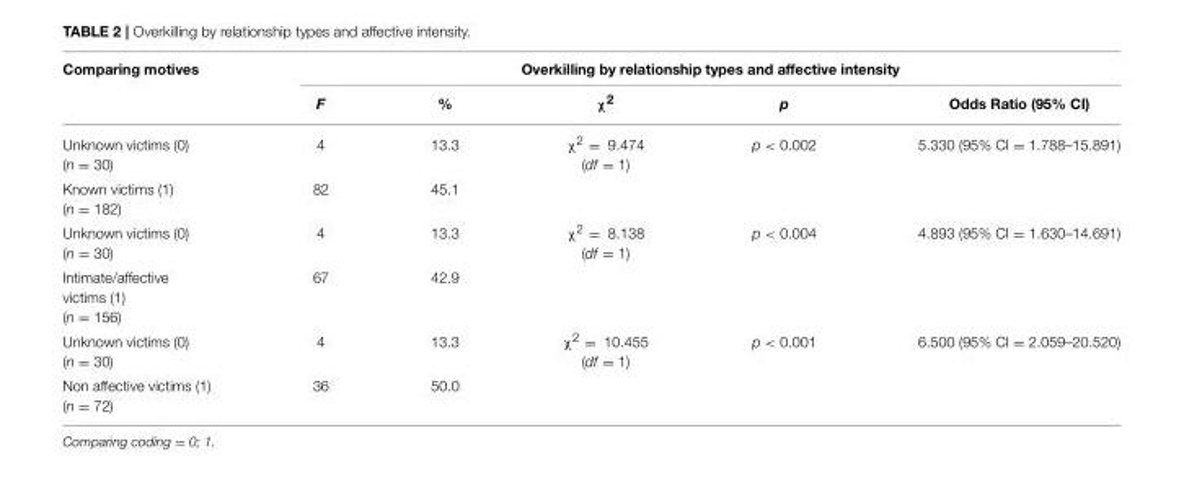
<table><thead><tr><td rowspan="2">Comparing motives</td><td colspan="5">Overkilling by relationship types and affective intensity</td></tr><tr><td>F</td><td>%</td><td>χ<sup>2</sup></td><td>p</td><td>Odds Ratio (95% CI)</td></tr></thead><tbody><tr><td>Unknown victims (0) (n = 30)</td><td>4</td><td>13.3</td><td>χ<sup>2</sup> = 9.474 (df = 1)</td><td>p &lt; 0.002</td><td>5.330 (95% CI = 1.788–15.891)</td></tr><tr><td>Known victims (1) (n = 182)</td><td>82</td><td>45.1</td><td></td><td></td><td></td></tr><tr><td>Unknown victims (0) (n = 30)</td><td>4</td><td>13.3</td><td>χ<sup>2</sup> = 8.138 (df = 1)</td><td>p &lt; 0.004</td><td>4.893 (95% CI = 1.630–14.691)</td></tr><tr><td>Intimate/affective victims (1) (n = 156)</td><td>67</td><td>42.9</td><td></td><td></td><td></td></tr><tr><td>Unknown victims (0) (n = 30)</td><td>4</td><td>13.3</td><td>χ<sup>2</sup> = 10.455 (df = 1)</td><td>p &lt; 0.001</td><td>6.500 (95% CI = 2.059–20.520)</td></tr><tr><td>Non affective victims (1) (n = 72)</td><td>36</td><td>50.0</td><td></td><td></td><td></td></tr></tbody></table>